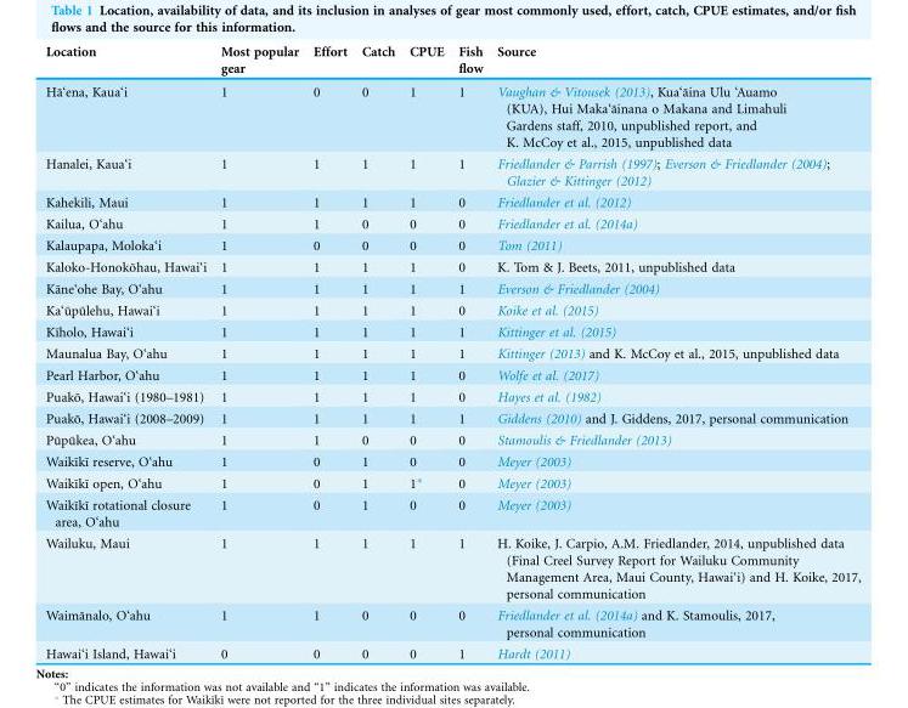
<table><thead><tr><td>Location</td><td>Most popular gear</td><td>Effort</td><td>Catch</td><td>CPUE</td><td>Fish flow</td><td>Source</td></tr></thead><tbody><tr><td>Ha¯‘ena, Kaua‘i</td><td>1</td><td>0</td><td>0</td><td>1</td><td>1</td><td>Vaughan &amp; Vitousek (2013), Kua‘a¯ina Ulu ‘Auamo (KUA), Hui Maka‘a¯inana o Makana and Limahuli Gardens staff, 2010, unpublished report, and K. McCoy et al., 2015, unpublished data</td></tr><tr><td>Hanalei, Kaua‘i</td><td>1</td><td>1</td><td>1</td><td>1</td><td>1</td><td>Friedlander &amp; Parrish (1997); Everson &amp; Friedlander (2004); Glazier &amp; Kittinger (2012)</td></tr><tr><td>Kahekili, Maui</td><td>1</td><td>1</td><td>1</td><td>1</td><td>0</td><td>Friedlander et al. (2012)</td></tr><tr><td>Kailua, O‘ahu</td><td>1</td><td>1</td><td>0</td><td>0</td><td>0</td><td>Friedlander et al. (2014a)</td></tr><tr><td>Kalaupapa, Moloka‘i</td><td>1</td><td>0</td><td>0</td><td>0</td><td>0</td><td>Tom (2011)</td></tr><tr><td>Kaloko-Honoko¯hau, Hawai‘i</td><td>1</td><td>1</td><td>1</td><td>1</td><td>0</td><td>K. Tom &amp; J. Beets, 2011, unpublished data</td></tr><tr><td>Ka¯ne‘ohe Bay, O‘ahu</td><td>1</td><td>1</td><td>1</td><td>1</td><td>1</td><td>Everson &amp; Friedlander (2004)</td></tr><tr><td>Ka‘u¯pu¯lehu, Hawai‘i</td><td>1</td><td>1</td><td>1</td><td>1</td><td>0</td><td>Koike et al. (2015)</td></tr><tr><td>Kı¯holo, Hawai‘i</td><td>1</td><td>1</td><td>1</td><td>1</td><td>1</td><td>Kittinger et al. (2015)</td></tr><tr><td>Maunalua Bay, O‘ahu</td><td>1</td><td>1</td><td>1</td><td>1</td><td>1</td><td>Kittinger (2013) and K. McCoy et al., 2015, unpublished data</td></tr><tr><td>Pearl Harbor, O‘ahu</td><td>1</td><td>1</td><td>1</td><td>1</td><td>0</td><td>Wolfe et al. (2017)</td></tr><tr><td>Puako¯, Hawai‘i (1980–1981)</td><td>1</td><td>1</td><td>1</td><td>1</td><td>0</td><td>Hayes et al. (1982)</td></tr><tr><td>Puako¯, Hawai‘i (2008–2009)</td><td>1</td><td>1</td><td>1</td><td>1</td><td>1</td><td>Giddens (2010) and J. Giddens, 2017, personal communication</td></tr><tr><td>Pu¯pu¯kea, O‘ahu</td><td>1</td><td>1</td><td>0</td><td>0</td><td>0</td><td>Stamoulis &amp; Friedlander (2013)</td></tr><tr><td>Waikı¯kı¯ reserve, O‘ahu</td><td>1</td><td>0</td><td>1</td><td>0</td><td>0</td><td>Meyer (2003)</td></tr><tr><td>Waikı¯kı¯ open, O‘ahu</td><td>1</td><td>0</td><td>1</td><td>1*</td><td>0</td><td>Meyer (2003)</td></tr><tr><td>Waikı¯kı¯ rotational closure area, O‘ahu</td><td>1</td><td>0</td><td>1</td><td>0</td><td>0</td><td>Meyer (2003)</td></tr><tr><td>Wailuku, Maui</td><td>1</td><td>1</td><td>1</td><td>1</td><td>1</td><td>H. Koike, J. Carpio, A.M. Friedlander, 2014, unpublished data (Final Creel Survey Report for Wailuku Community Management Area, Maui County, Hawai‘i) and H. Koike, 2017, personal communication</td></tr><tr><td>Waima¯nalo, O‘ahu</td><td>1</td><td>1</td><td>0</td><td>0</td><td>0</td><td>Friedlander et al. (2014a) and K. Stamoulis, 2017, personal communication</td></tr><tr><td>Hawai‘i Island, Hawai‘i</td><td>0</td><td>0</td><td>0</td><td>0</td><td>1</td><td>Hardt (2011)</td></tr></tbody></table>